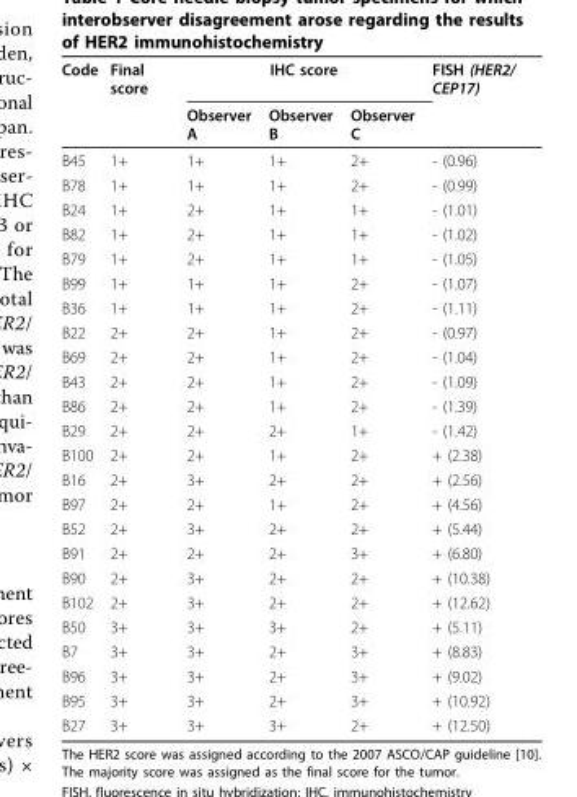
<table><thead><tr><td rowspan="2">Code</td><td rowspan="2">Final score</td><td colspan="3">IHC score</td><td rowspan="2">FISH (HER2/ CEP17)</td></tr><tr><td>Observer A</td><td>Observer B</td><td>Observer C</td></tr></thead><tbody><tr><td>B45</td><td>1+</td><td>1+</td><td>1+</td><td>2+</td><td>- (0.96)</td></tr><tr><td>B78</td><td>1+</td><td>1+</td><td>1+</td><td>2+</td><td>- (0.99)</td></tr><tr><td>B24</td><td>1+</td><td>2+</td><td>1+</td><td>1+</td><td>- (1.01)</td></tr><tr><td>B82</td><td>1+</td><td>2+</td><td>1+</td><td>1+</td><td>- (1.02)</td></tr><tr><td>B79</td><td>1+</td><td>2+</td><td>1+</td><td>1+</td><td>- (1.05)</td></tr><tr><td>B99</td><td>1+</td><td>1+</td><td>1+</td><td>2+</td><td>- (1.07)</td></tr><tr><td>B36</td><td>1+</td><td>1+</td><td>1+</td><td>2+</td><td>- (1.11)</td></tr><tr><td>B22</td><td>2+</td><td>2+</td><td>1+</td><td>2+</td><td>- (0.97)</td></tr><tr><td>B69</td><td>2+</td><td>2+</td><td>1+</td><td>2+</td><td>- (1.04)</td></tr><tr><td>B43</td><td>2+</td><td>2+</td><td>1+</td><td>2+</td><td>- (1.09)</td></tr><tr><td>B86</td><td>2+</td><td>2+</td><td>1+</td><td>2+</td><td>- (1.39)</td></tr><tr><td>B29</td><td>2+</td><td>2+</td><td>2+</td><td>1+</td><td>- (1.42)</td></tr><tr><td>B100</td><td>2+</td><td>2+</td><td>1+</td><td>2+</td><td>+ (2.38)</td></tr><tr><td>B16</td><td>2+</td><td>3+</td><td>2+</td><td>2+</td><td>+ (2.56)</td></tr><tr><td>B97</td><td>2+</td><td>2+</td><td>1+</td><td>2+</td><td>+ (4.56)</td></tr><tr><td>B52</td><td>2+</td><td>3+</td><td>2+</td><td>2+</td><td>+ (5.44)</td></tr><tr><td>B91</td><td>2+</td><td>2+</td><td>2+</td><td>3+</td><td>+ (6.80)</td></tr><tr><td>B90</td><td>2+</td><td>3+</td><td>2+</td><td>2+</td><td>+ (10.38)</td></tr><tr><td>B102</td><td>2+</td><td>3+</td><td>2+</td><td>2+</td><td>+ (12.62)</td></tr><tr><td>B50</td><td>3+</td><td>3+</td><td>3+</td><td>2+</td><td>+ (5.11)</td></tr><tr><td>B7</td><td>3+</td><td>3+</td><td>2+</td><td>3+</td><td>+ (8.83)</td></tr><tr><td>B96</td><td>3+</td><td>3+</td><td>2+</td><td>3+</td><td>+ (9.02)</td></tr><tr><td>B95</td><td>3+</td><td>3+</td><td>2+</td><td>3+</td><td>+ (10.92)</td></tr><tr><td>B27</td><td>3+</td><td>3+</td><td>3+</td><td>2+</td><td>+ (12.50)</td></tr></tbody></table>